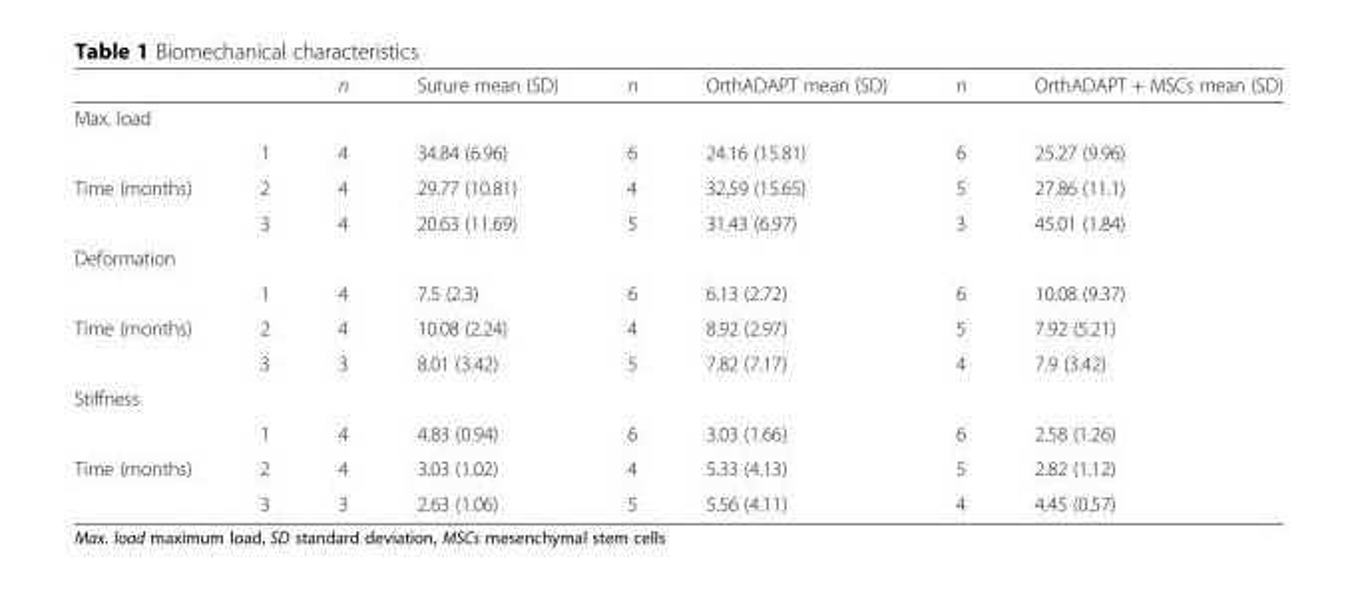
<table><thead><tr><td></td><td></td><td>n</td><td>Suture mean (SD)</td><td>n</td><td>OrthADAPT mean (SD)</td><td>n</td><td>OrthADAPT + MSCs mean (SD)</td></tr></thead><tbody><tr><td colspan="8">Max. load</td></tr><tr><td></td><td>1</td><td>4</td><td>34.84 (6.96)</td><td>6</td><td>24.16 (15.81)</td><td>6</td><td>25.27 (9.96)</td></tr><tr><td rowspan="2">Time (months)</td><td>2</td><td>4</td><td>29.77 (10.81)</td><td>4</td><td>32,59 (15.65)</td><td>5</td><td>27.86 (11.1)</td></tr><tr><td>3</td><td>4</td><td>20.63 (11.69)</td><td>5</td><td>31.43 (6.97)</td><td>3</td><td>45.01 (1.84)</td></tr><tr><td colspan="8">Deformation</td></tr><tr><td></td><td>1</td><td>4</td><td>7.5 (2.3)</td><td>6</td><td>6.13 (2.72)</td><td>6</td><td>10.08 (9.37)</td></tr><tr><td rowspan="2">Time (months)</td><td>2</td><td>4</td><td>10.08 (2.24)</td><td>4</td><td>8.92 (2.97)</td><td>5</td><td>7.92 (5.21)</td></tr><tr><td>3</td><td>3</td><td>8.01 (3.42)</td><td>5</td><td>7.82 (7.17)</td><td>4</td><td>7.9 (3.42)</td></tr><tr><td colspan="8">Stiffness</td></tr><tr><td></td><td>1</td><td>4</td><td>4.83 (0.94)</td><td>6</td><td>3.03 (1.66)</td><td>6</td><td>2.58 (1.26)</td></tr><tr><td rowspan="2">Time (months)</td><td>2</td><td>4</td><td>3.03 (1.02)</td><td>4</td><td>5.33 (4.13)</td><td>5</td><td>2.82 (1.12)</td></tr><tr><td>3</td><td>3</td><td>2.63 (1.06)</td><td>5</td><td>5.56 (4.11)</td><td>4</td><td>4.45 (0.57)</td></tr></tbody></table>